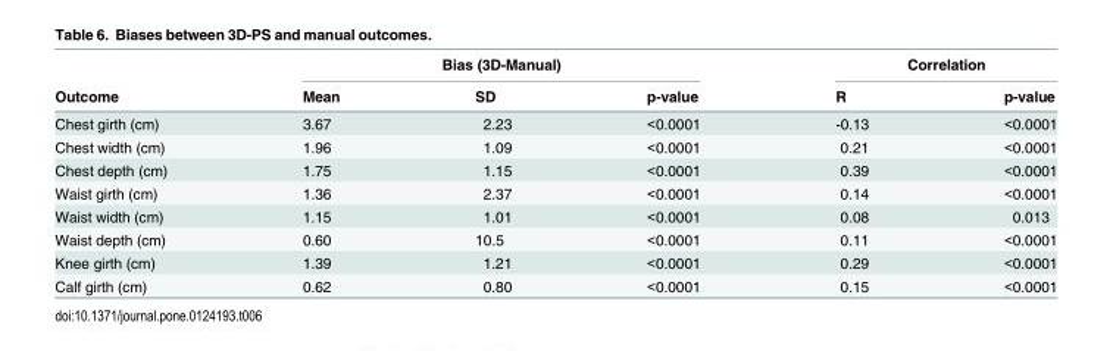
<table><thead><tr><td rowspan="2">Outcome</td><td colspan="3">Bias (3D-Manual)</td><td colspan="2">Correlation</td></tr><tr><td>Mean</td><td>SD</td><td>p-value</td><td>R</td><td>p-value</td></tr></thead><tbody><tr><td>Chest girth (cm)</td><td>3.67</td><td>2.23</td><td>&lt;0.0001</td><td>-0.13</td><td>&lt;0.0001</td></tr><tr><td>Chest width (cm)</td><td>1.96</td><td>1.09</td><td>&lt;0.0001</td><td>0.21</td><td>&lt;0.0001</td></tr><tr><td>Chest depth (cm)</td><td>1.75</td><td>1.15</td><td>&lt;0.0001</td><td>0.39</td><td>&lt;0.0001</td></tr><tr><td>Waist girth (cm)</td><td>1.36</td><td>2.37</td><td>&lt;0.0001</td><td>0.14</td><td>&lt;0.0001</td></tr><tr><td>Waist width (cm)</td><td>1.15</td><td>1.01</td><td>&lt;0.0001</td><td>0.08</td><td>0.013</td></tr><tr><td>Waist depth (cm)</td><td>0.60</td><td>10.5</td><td>&lt;0.0001</td><td>0.11</td><td>&lt;0.0001</td></tr><tr><td>Knee girth (cm)</td><td>1.39</td><td>1.21</td><td>&lt;0.0001</td><td>0.29</td><td>&lt;0.0001</td></tr><tr><td>Calf girth (cm)</td><td>0.62</td><td>0.80</td><td>&lt;0.0001</td><td>0.15</td><td>&lt;0.0001</td></tr></tbody></table>